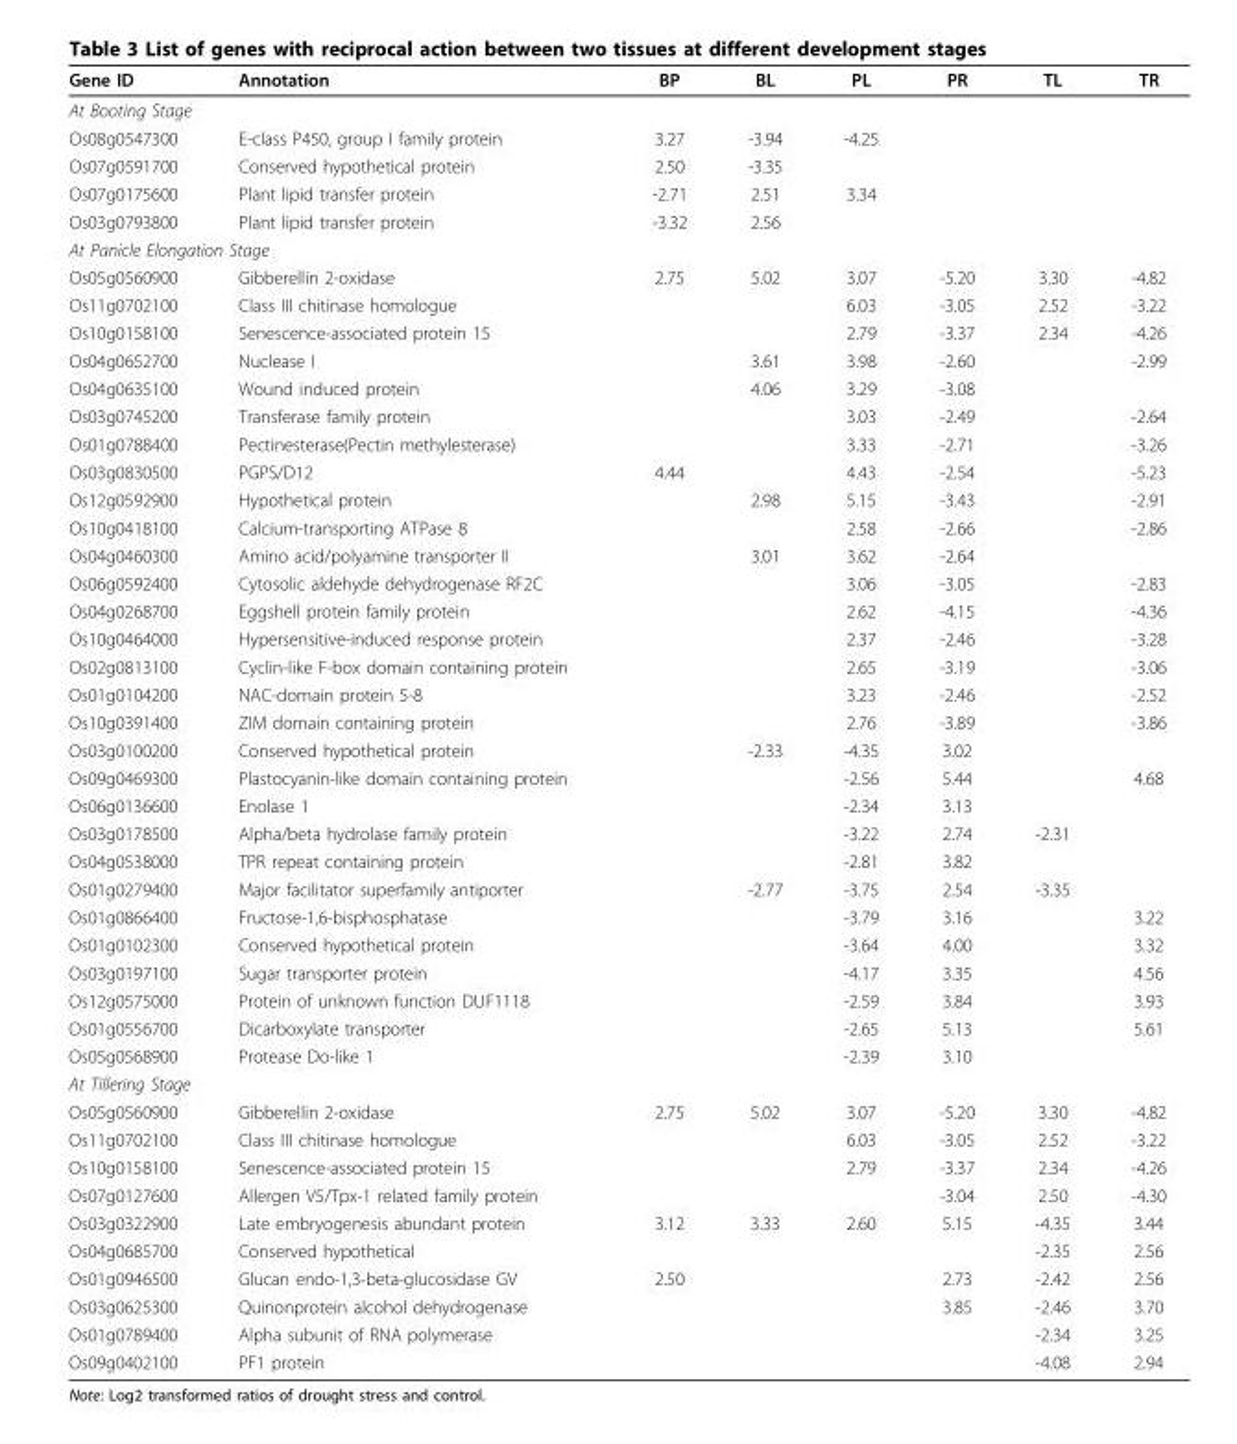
<table><thead><tr><td>Gene ID</td><td>Annotation</td><td>BP</td><td>BL</td><td>PL</td><td>PR</td><td>TL</td><td>TR</td></tr></thead><tbody><tr><td colspan="8">At Booting Stage</td></tr><tr><td>Os08g0547300</td><td>E-class P450, group I family protein</td><td>3.27</td><td>-3.94</td><td>-4.25</td><td></td><td></td><td></td></tr><tr><td>Os07g0591700</td><td>Conserved hypothetical protein</td><td>2.50</td><td>-3.35</td><td></td><td></td><td></td><td></td></tr><tr><td>Os07g0175600</td><td>Plant lipid transfer protein</td><td>-2.71</td><td>2.51</td><td>3.34</td><td></td><td></td><td></td></tr><tr><td>Os03g0793800</td><td>Plant lipid transfer protein</td><td>-3.32</td><td>2.56</td><td></td><td></td><td></td><td></td></tr><tr><td colspan="8">At Panicle Elongation Stage</td></tr><tr><td>Os05g0560900</td><td>Gibberellin 2-oxidase</td><td>2.75</td><td>5.02</td><td>3.07</td><td>-5.20</td><td>3.30</td><td>-4.82</td></tr><tr><td>Os11g0702100</td><td>Class III chitinase homologue</td><td></td><td></td><td>6.03</td><td>-3.05</td><td>2.52</td><td>-3.22</td></tr><tr><td>Os10g0158100</td><td>Senescence-associated protein 15</td><td></td><td></td><td>2.79</td><td>-3.37</td><td>2.34</td><td>-4.26</td></tr><tr><td>Os04g0652700</td><td>Nuclease I</td><td></td><td>3.61</td><td>3.98</td><td>-2.60</td><td></td><td>-2.99</td></tr><tr><td>Os04g0635100</td><td>Wound induced protein</td><td></td><td>4.06</td><td>3.29</td><td>-3.08</td><td></td><td></td></tr><tr><td>Os03g0745200</td><td>Transferase family protein</td><td></td><td></td><td>3.03</td><td>-2.49</td><td></td><td>-2.64</td></tr><tr><td>Os01g0788400</td><td>Pectinesterase(Pectin methylesterase)</td><td></td><td></td><td>3.33</td><td>-2.71</td><td></td><td>-3.26</td></tr><tr><td>Os03g0830500</td><td>PGPS/D12</td><td>4.44</td><td></td><td>4.43</td><td>-2.54</td><td></td><td>-5.23</td></tr><tr><td>Os12g0592900</td><td>Hypothetical protein</td><td></td><td>2.98</td><td>5.15</td><td>-3.43</td><td></td><td>-2.91</td></tr><tr><td>Os10g0418100</td><td>Calcium-transporting ATPase 8</td><td></td><td></td><td>2.58</td><td>-2.66</td><td></td><td>-2.86</td></tr><tr><td>Os04g0460300</td><td>Amino acid/polyamine transporter II</td><td></td><td>3.01</td><td>3.62</td><td>-2.64</td><td></td><td></td></tr><tr><td>Os06g0592400</td><td>Cytosolic aldehyde dehydrogenase RF2C</td><td></td><td></td><td>3.06</td><td>-3.05</td><td></td><td>-2.83</td></tr><tr><td>Os04g0268700</td><td>Eggshell protein family protein</td><td></td><td></td><td>2.62</td><td>-4.15</td><td></td><td>-4.36</td></tr><tr><td>Os10g0464000</td><td>Hypersensitive-induced response protein</td><td></td><td></td><td>2.37</td><td>-2.46</td><td></td><td>-3.28</td></tr><tr><td>Os02g0813100</td><td>Cyclin-like F-box domain containing protein</td><td></td><td></td><td>2.65</td><td>-3.19</td><td></td><td>-3.06</td></tr><tr><td>Os01g0104200</td><td>NAC-domain protein 5-8</td><td></td><td></td><td>3.23</td><td>-2.46</td><td></td><td>-2.52</td></tr><tr><td>Os10g0391400</td><td>ZIM domain containing protein</td><td></td><td></td><td>2.76</td><td>-3.89</td><td></td><td>-3.86</td></tr><tr><td>Os03g0100200</td><td>Conserved hypothetical protein</td><td></td><td>-2.33</td><td>-4.35</td><td>3.02</td><td></td><td></td></tr><tr><td>Os09g0469300</td><td>Plastocyanin-like domain containing protein</td><td></td><td></td><td>-2.56</td><td>5.44</td><td></td><td>4.68</td></tr><tr><td>Os06g0136600</td><td>Enolase 1</td><td></td><td></td><td>-2.34</td><td>3.13</td><td></td><td></td></tr><tr><td>Os03g0178500</td><td>Alpha/beta hydrolase family protein</td><td></td><td></td><td>-3.22</td><td>2.74</td><td>-2.31</td><td></td></tr><tr><td>Os04g0538000</td><td>TPR repeat containing protein</td><td></td><td></td><td>-2.81</td><td>3.82</td><td></td><td></td></tr><tr><td>Os01g0279400</td><td>Major facilitator superfamily antiporter</td><td></td><td>-2.77</td><td>-3.75</td><td>2.54</td><td>-3.35</td><td></td></tr><tr><td>Os01g0866400</td><td>Fructose-1,6-bisphosphatase</td><td></td><td></td><td>-3.79</td><td>3.16</td><td></td><td>3.22</td></tr><tr><td>Os01g0102300</td><td>Conserved hypothetical protein</td><td></td><td></td><td>-3.64</td><td>4.00</td><td></td><td>3.32</td></tr><tr><td>Os03g0197100</td><td>Sugar transporter protein</td><td></td><td></td><td>-4.17</td><td>3.35</td><td></td><td>4.56</td></tr><tr><td>Os12g0575000</td><td>Protein of unknown function DUF1118</td><td></td><td></td><td>-2.59</td><td>3.84</td><td></td><td>3.93</td></tr><tr><td>Os01g0556700</td><td>Dicarboxylate transporter</td><td></td><td></td><td>-2.65</td><td>5.13</td><td></td><td>5.61</td></tr><tr><td>Os05g0568900</td><td>Protease Do-like 1</td><td></td><td></td><td>-2.39</td><td>3.10</td><td></td><td></td></tr><tr><td colspan="8">At Tillering Stage</td></tr><tr><td>Os05g0560900</td><td>Gibberellin 2-oxidase</td><td>2.75</td><td>5.02</td><td>3.07</td><td>-5.20</td><td>3.30</td><td>-4.82</td></tr><tr><td>Os11g0702100</td><td>Class III chitinase homologue</td><td></td><td></td><td>6.03</td><td>-3.05</td><td>2.52</td><td>-3.22</td></tr><tr><td>Os10g0158100</td><td>Senescence-associated protein 15</td><td></td><td></td><td>2.79</td><td>-3.37</td><td>2.34</td><td>-4.26</td></tr><tr><td>Os07g0127600</td><td>Allergen V5/Tpx-1 related family protein</td><td></td><td></td><td></td><td>-3.04</td><td>2.50</td><td>-4.30</td></tr><tr><td>Os03g0322900</td><td>Late embryogenesis abundant protein</td><td>3.12</td><td>3.33</td><td>2.60</td><td>5.15</td><td>-4.35</td><td>3.44</td></tr><tr><td>Os04g0685700</td><td>Conserved hypothetical</td><td></td><td></td><td></td><td></td><td>-2.35</td><td>2.56</td></tr><tr><td>Os01g0946500</td><td>Glucan endo-1,3-beta-glucosidase GV</td><td>2.50</td><td></td><td></td><td>2.73</td><td>-2.42</td><td>2.56</td></tr><tr><td>Os03g0625300</td><td>Quinonprotein alcohol dehydrogenase</td><td></td><td></td><td></td><td>3.85</td><td>-2.46</td><td>3.70</td></tr><tr><td>Os01g0789400</td><td>Alpha subunit of RNA polymerase</td><td></td><td></td><td></td><td></td><td>-2.34</td><td>3.25</td></tr><tr><td>Os09g0402100</td><td>PF1 protein</td><td></td><td></td><td></td><td></td><td>-4.08</td><td>2.94</td></tr></tbody></table>